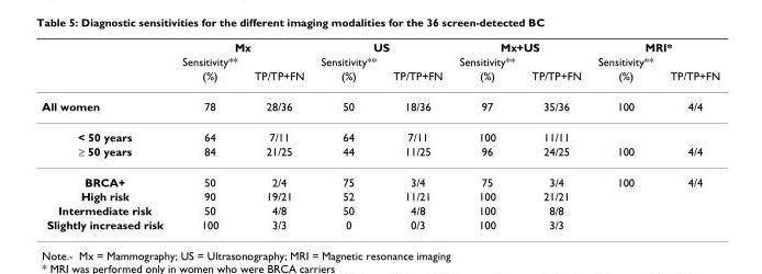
<table><thead><tr><td rowspan="3"></td><td colspan="2">Mx</td><td colspan="2">US</td><td colspan="2">Mx+US</td><td colspan="2">MRI*</td></tr><tr><td rowspan="2">Sensitivity** (%)</td><td rowspan="2">TP/TP+FN</td><td rowspan="2">Sensitivity** (%)</td><td rowspan="2">TP/TP+FN</td><td rowspan="2">Sensitivity** (%)</td><td rowspan="2">TP/TP+FN</td><td rowspan="2">Sensitivity** (%)</td><td rowspan="2">TP/TP+FN</td></tr><tr></tr></thead><tbody><tr><td>All women</td><td>78</td><td>28/36</td><td>50</td><td>18/36</td><td>97</td><td>35/36</td><td>100</td><td>4/4</td></tr><tr><td>&lt; 50 years</td><td>64</td><td>7/11</td><td>64</td><td>7/11</td><td>100</td><td>11/11</td><td></td><td></td></tr><tr><td>≥ 50 years</td><td>84</td><td>21/25</td><td>44</td><td>11/25</td><td>96</td><td>24/25</td><td>100</td><td>4/4</td></tr><tr><td>BRCA+</td><td>50</td><td>2/4</td><td>75</td><td>3/4</td><td>75</td><td>3/4</td><td>100</td><td>4/4</td></tr><tr><td>High risk</td><td>90</td><td>19/21</td><td>52</td><td>11/21</td><td>100</td><td>21/21</td><td></td><td></td></tr><tr><td>Intermediate risk</td><td>50</td><td>4/8</td><td>50</td><td>4/8</td><td>100</td><td>8/8</td><td></td><td></td></tr><tr><td>Slightly increased risk</td><td>100</td><td>3/3</td><td>0</td><td>0/3</td><td>100</td><td>3/3</td><td></td><td></td></tr></tbody></table>